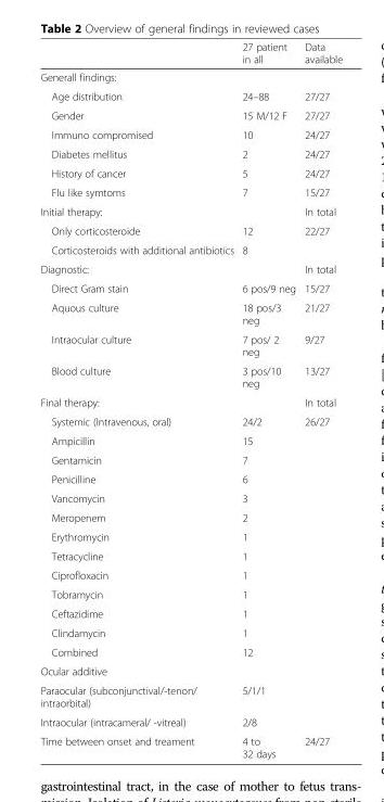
<table><thead><tr><td></td><td>27 patient in all</td><td>Data available</td></tr></thead><tbody><tr><td colspan="3">Generall findings:</td></tr><tr><td>Age distribution</td><td>24–88</td><td>27/27</td></tr><tr><td>Gender</td><td>15 M/12 F</td><td>27/27</td></tr><tr><td>Immuno compromised</td><td>10</td><td>24/27</td></tr><tr><td>Diabetes mellitus</td><td>2</td><td>24/27</td></tr><tr><td>History of cancer</td><td>5</td><td>24/27</td></tr><tr><td>Flu like symtoms</td><td>7</td><td>15/27</td></tr><tr><td>Initial therapy:</td><td></td><td>In total</td></tr><tr><td>Only corticosteroide</td><td>12</td><td>22/27</td></tr><tr><td>Corticosteroids with additional antibiotics</td><td>8</td><td></td></tr><tr><td>Diagnostic:</td><td></td><td>In total</td></tr><tr><td>Direct Gram stain</td><td>6 pos/9 neg</td><td>15/27</td></tr><tr><td>Aquous culture</td><td>18 pos/3 neg</td><td>21/27</td></tr><tr><td>Intraocular culture</td><td>7 pos/ 2 neg</td><td>9/27</td></tr><tr><td>Blood culture</td><td>3 pos/10 neg</td><td>13/27</td></tr><tr><td>Final therapy:</td><td></td><td>In total</td></tr><tr><td>Systemic (Intravenous, oral)</td><td>24/2</td><td>26/27</td></tr><tr><td>Ampicillin</td><td>15</td><td></td></tr><tr><td>Gentamicin</td><td>7</td><td></td></tr><tr><td>Penicilline</td><td>6</td><td></td></tr><tr><td>Vancomycin</td><td>3</td><td></td></tr><tr><td>Meropenem</td><td>2</td><td></td></tr><tr><td>Erythromycin</td><td>1</td><td></td></tr><tr><td>Tetracycline</td><td>1</td><td></td></tr><tr><td>Ciprofloxacin</td><td>1</td><td></td></tr><tr><td>Tobramycin</td><td>1</td><td></td></tr><tr><td>Ceftazidime</td><td>1</td><td></td></tr><tr><td>Clindamycin</td><td>1</td><td></td></tr><tr><td>Combined</td><td>12</td><td></td></tr><tr><td colspan="3">Ocular additive</td></tr><tr><td>Paraocular (subconjunctival/-tenon/ intraorbital)</td><td>5/1/1</td><td></td></tr><tr><td>Intraocular (intracameral/ -vitreal)</td><td>2/8</td><td></td></tr><tr><td>Time between onset and treament</td><td>4 to 32 days</td><td>24/27</td></tr></tbody></table>